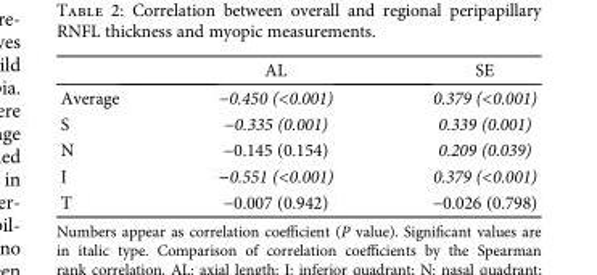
<table><thead><tr><td></td><td>AL</td><td>SE</td></tr></thead><tbody><tr><td>Average</td><td>−0.450 (&lt;0.001)</td><td>0.379 (&lt;0.001)</td></tr><tr><td>S</td><td>−0.335 (0.001)</td><td>0.339 (0.001)</td></tr><tr><td>N</td><td>−0.145 (0.154)</td><td>0.209 (0.039)</td></tr><tr><td>I</td><td>−0.551 (&lt;0.001)</td><td>0.379 (&lt;0.001)</td></tr><tr><td>T</td><td>−0.007 (0.942)</td><td>−0.026 (0.798)</td></tr></tbody></table>